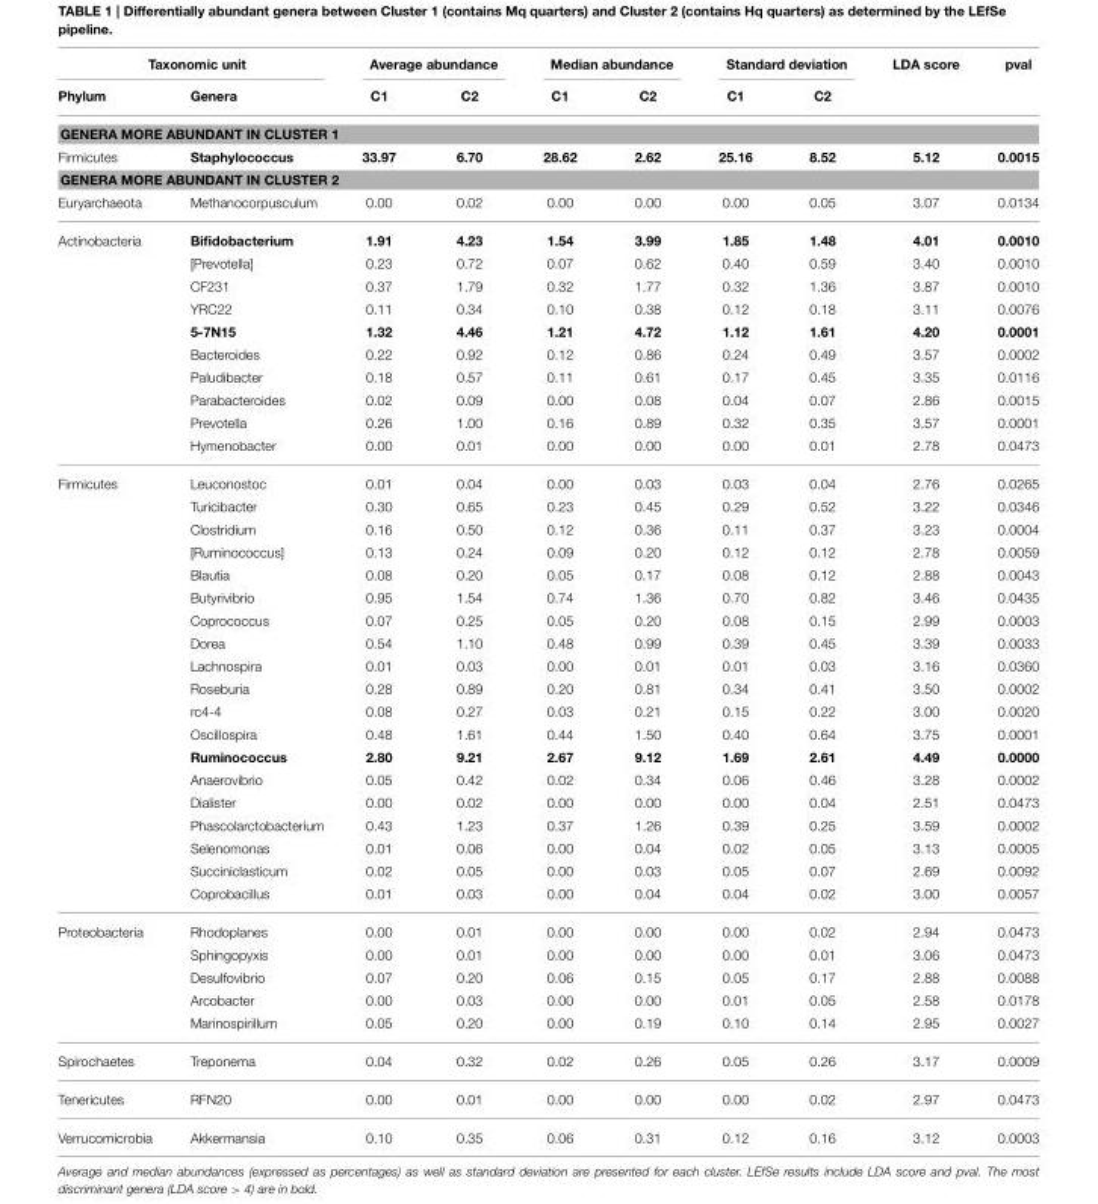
<table><thead><tr><td colspan="2">Taxonomic unit</td><td colspan="2">Average abundance</td><td colspan="2">Median abundance</td><td colspan="2">Standard deviation</td><td rowspan="2">LDA score</td><td rowspan="2">pval</td></tr><tr><td>Phylum</td><td>Genera</td><td>C1</td><td>C2</td><td>C1</td><td>C2</td><td>C1</td><td>C2</td></tr></thead><tbody><tr><td colspan="10">GENERA MORE ABUNDANT IN CLUSTER 1</td></tr><tr><td>Firmicutes</td><td>Staphylococcus</td><td>33.97</td><td>6.70</td><td>28.62</td><td>2.62</td><td>25.16</td><td>8.52</td><td>5.12</td><td>0.0015</td></tr><tr><td colspan="10">GENERA MORE ABUNDANT IN CLUSTER 2</td></tr><tr><td>Euryarchaeota</td><td>Methanocorpusculum</td><td>0.00</td><td>0.02</td><td>0.00</td><td>0.00</td><td>0.00</td><td>0.05</td><td>3.07</td><td>0.0134</td></tr><tr><td rowspan="10">Actinobacteria</td><td>Bifidobacterium</td><td>1.91</td><td>4.23</td><td>1.54</td><td>3.99</td><td>1.85</td><td>1.48</td><td>4.01</td><td>0.0010</td></tr><tr><td>[Prevotella]</td><td>0.23</td><td>0.72</td><td>0.07</td><td>0.62</td><td>0.40</td><td>0.59</td><td>3.40</td><td>0.0010</td></tr><tr><td>CF231</td><td>0.37</td><td>1.79</td><td>0.32</td><td>1.77</td><td>0.32</td><td>1.36</td><td>3.87</td><td>0.0010</td></tr><tr><td>YRC22</td><td>0.11</td><td>0.34</td><td>0.10</td><td>0.38</td><td>0.12</td><td>0.18</td><td>3.11</td><td>0.0076</td></tr><tr><td>5-7N15</td><td>1.32</td><td>4.46</td><td>1.21</td><td>4.72</td><td>1.12</td><td>1.61</td><td>4.20</td><td>0.0001</td></tr><tr><td>Bacteroides</td><td>0.22</td><td>0.92</td><td>0.12</td><td>0.86</td><td>0.24</td><td>0.49</td><td>3.57</td><td>0.0002</td></tr><tr><td>Paludibacter</td><td>0.18</td><td>0.57</td><td>0.11</td><td>0.61</td><td>0.17</td><td>0.45</td><td>3.35</td><td>0.0116</td></tr><tr><td>Parabacteroides</td><td>0.02</td><td>0.09</td><td>0.00</td><td>0.08</td><td>0.04</td><td>0.07</td><td>2.86</td><td>0.0015</td></tr><tr><td>Prevotella</td><td>0.26</td><td>1.00</td><td>0.16</td><td>0.89</td><td>0.32</td><td>0.35</td><td>3.57</td><td>0.0001</td></tr><tr><td>Hymenobacter</td><td>0.00</td><td>0.01</td><td>0.00</td><td>0.00</td><td>0.00</td><td>0.01</td><td>2.78</td><td>0.0473</td></tr><tr><td rowspan="19">Firmicutes</td><td>Leuconostoc</td><td>0.01</td><td>0.04</td><td>0.00</td><td>0.03</td><td>0.03</td><td>0.04</td><td>2.76</td><td>0.0265</td></tr><tr><td>Turicibacter</td><td>0.30</td><td>0.65</td><td>0.23</td><td>0.45</td><td>0.29</td><td>0.52</td><td>3.22</td><td>0.0346</td></tr><tr><td>Clostridium</td><td>0.16</td><td>0.50</td><td>0.12</td><td>0.36</td><td>0.11</td><td>0.37</td><td>3.23</td><td>0.0004</td></tr><tr><td>[Ruminococcus]</td><td>0.13</td><td>0.24</td><td>0.09</td><td>0.20</td><td>0.12</td><td>0.12</td><td>2.78</td><td>0.0059</td></tr><tr><td>Blautia</td><td>0.08</td><td>0.20</td><td>0.05</td><td>0.17</td><td>0.08</td><td>0.12</td><td>2.88</td><td>0.0043</td></tr><tr><td>Butyrivibrio</td><td>0.95</td><td>1.54</td><td>0.74</td><td>1.36</td><td>0.70</td><td>0.82</td><td>3.46</td><td>0.0435</td></tr><tr><td>Coprococcus</td><td>0.07</td><td>0.25</td><td>0.05</td><td>0.20</td><td>0.08</td><td>0.15</td><td>2.99</td><td>0.0003</td></tr><tr><td>Dorea</td><td>0.54</td><td>1.10</td><td>0.48</td><td>0.99</td><td>0.39</td><td>0.45</td><td>3.39</td><td>0.0033</td></tr><tr><td>Lachnospira</td><td>0.01</td><td>0.03</td><td>0.00</td><td>0.01</td><td>0.01</td><td>0.03</td><td>3.16</td><td>0.0360</td></tr><tr><td>Roseburia</td><td>0.28</td><td>0.89</td><td>0.20</td><td>0.81</td><td>0.34</td><td>0.41</td><td>3.50</td><td>0.0002</td></tr><tr><td>rc4-4</td><td>0.08</td><td>0.27</td><td>0.03</td><td>0.21</td><td>0.15</td><td>0.22</td><td>3.00</td><td>0.0020</td></tr><tr><td>Oscillospira</td><td>0.48</td><td>1.61</td><td>0.44</td><td>1.50</td><td>0.40</td><td>0.64</td><td>3.75</td><td>0.0001</td></tr><tr><td>Ruminococcus</td><td>2.80</td><td>9.21</td><td>2.67</td><td>9.12</td><td>1.69</td><td>2.61</td><td>4.49</td><td>0.0000</td></tr><tr><td>Anaerovibrio</td><td>0.05</td><td>0.42</td><td>0.02</td><td>0.34</td><td>0.06</td><td>0.46</td><td>3.28</td><td>0.0002</td></tr><tr><td>Dialister</td><td>0.00</td><td>0.02</td><td>0.00</td><td>0.00</td><td>0.00</td><td>0.04</td><td>2.51</td><td>0.0473</td></tr><tr><td>Phascolarctobacterium</td><td>0.43</td><td>1.23</td><td>0.37</td><td>1.26</td><td>0.39</td><td>0.25</td><td>3.59</td><td>0.0002</td></tr><tr><td>Selenomonas</td><td>0.01</td><td>0.06</td><td>0.00</td><td>0.04</td><td>0.02</td><td>0.05</td><td>3.13</td><td>0.0005</td></tr><tr><td>Succiniclasticum</td><td>0.02</td><td>0.05</td><td>0.00</td><td>0.03</td><td>0.05</td><td>0.07</td><td>2.69</td><td>0.0092</td></tr><tr><td>Coprobacillus</td><td>0.01</td><td>0.03</td><td>0.00</td><td>0.04</td><td>0.04</td><td>0.02</td><td>3.00</td><td>0.0057</td></tr><tr><td rowspan="5">Proteobacteria</td><td>Rhodoplanes</td><td>0.00</td><td>0.01</td><td>0.00</td><td>0.00</td><td>0.00</td><td>0.02</td><td>2.94</td><td>0.0473</td></tr><tr><td>Sphingopyxis</td><td>0.00</td><td>0.01</td><td>0.00</td><td>0.00</td><td>0.00</td><td>0.01</td><td>3.06</td><td>0.0473</td></tr><tr><td>Desulfovibrio</td><td>0.07</td><td>0.20</td><td>0.06</td><td>0.15</td><td>0.05</td><td>0.17</td><td>2.88</td><td>0.0088</td></tr><tr><td>Arcobacter</td><td>0.00</td><td>0.03</td><td>0.00</td><td>0.00</td><td>0.01</td><td>0.05</td><td>2.58</td><td>0.0178</td></tr><tr><td>Marinospirillum</td><td>0.05</td><td>0.20</td><td>0.00</td><td>0.19</td><td>0.10</td><td>0.14</td><td>2.95</td><td>0.0027</td></tr><tr><td>Spirochaetes</td><td>Treponema</td><td>0.04</td><td>0.32</td><td>0.02</td><td>0.26</td><td>0.05</td><td>0.26</td><td>3.17</td><td>0.0009</td></tr><tr><td>Tenericutes</td><td>RFN20</td><td>0.00</td><td>0.01</td><td>0.00</td><td>0.00</td><td>0.00</td><td>0.02</td><td>2.97</td><td>0.0473</td></tr><tr><td>Verrucomicrobia</td><td>Akkermansia</td><td>0.10</td><td>0.35</td><td>0.06</td><td>0.31</td><td>0.12</td><td>0.16</td><td>3.12</td><td>0.0003</td></tr></tbody></table>